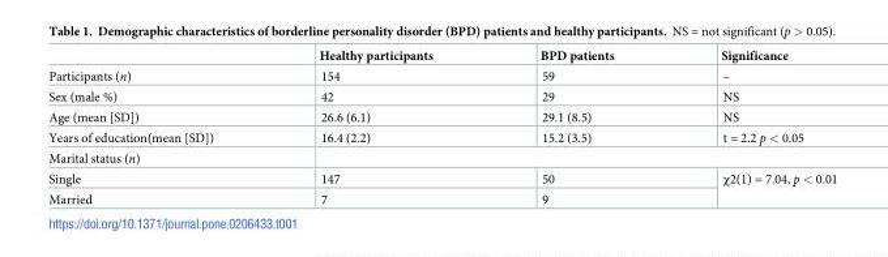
<table><thead><tr><td></td><td>Healthy participants</td><td>BPD patients</td><td>Significance</td></tr></thead><tbody><tr><td>Participants (n)</td><td>154</td><td>59</td><td>–</td></tr><tr><td>Sex (male %)</td><td>42</td><td>29</td><td>NS</td></tr><tr><td>Age (mean [SD])</td><td>26.6 (6.1)</td><td>29.1 (8.5)</td><td>NS</td></tr><tr><td>Years of education(mean [SD])</td><td>16.4 (2.2)</td><td>15.2 (3.5)</td><td>t = 2.2 p &lt; 0.05</td></tr><tr><td colspan="4">Marital status (n)</td></tr><tr><td>Single</td><td>147</td><td>50</td><td rowspan="2">χ2(1) = 7.04, p &lt; 0.01</td></tr><tr><td>Married</td><td>7</td><td>9</td></tr></tbody></table>